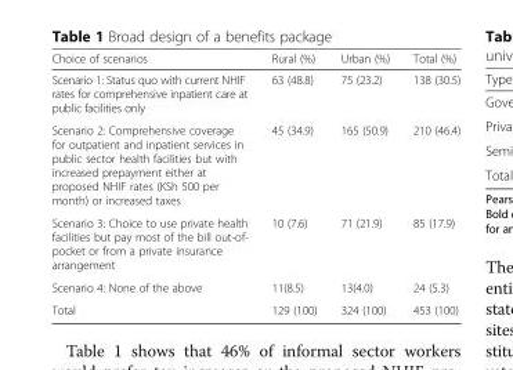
<table><thead><tr><td>Choice of scenarios</td><td>Rural (%)</td><td>Urban (%)</td><td>Total (%)</td></tr></thead><tbody><tr><td>Scenario 1: Status quo with current NHIF rates for comprehensive inpatient care at public facilities only</td><td>63 (48.8)</td><td>75 (23.2)</td><td>138 (30.5)</td></tr><tr><td>Scenario 2: Comprehensive coverage for outpatient and inpatient services in public sector health facilities but with increased prepayment either at proposed NHIF rates (KSh 500 per month) or increased taxes</td><td>45 (34.9)</td><td>165 (50.9)</td><td>210 (46.4)</td></tr><tr><td>Scenario 3: Choice to use private health facilities but pay most of the bill out-of- pocket or from a private insurance arrangement</td><td>10 (7.6)</td><td>71 (21.9)</td><td>85 (17.9)</td></tr><tr><td>Scenario 4: None of the above</td><td>11(8.5)</td><td>13(4.0)</td><td>24 (5.3)</td></tr><tr><td>Total</td><td>129 (100)</td><td>324 (100)</td><td>453 (100)</td></tr></tbody></table>